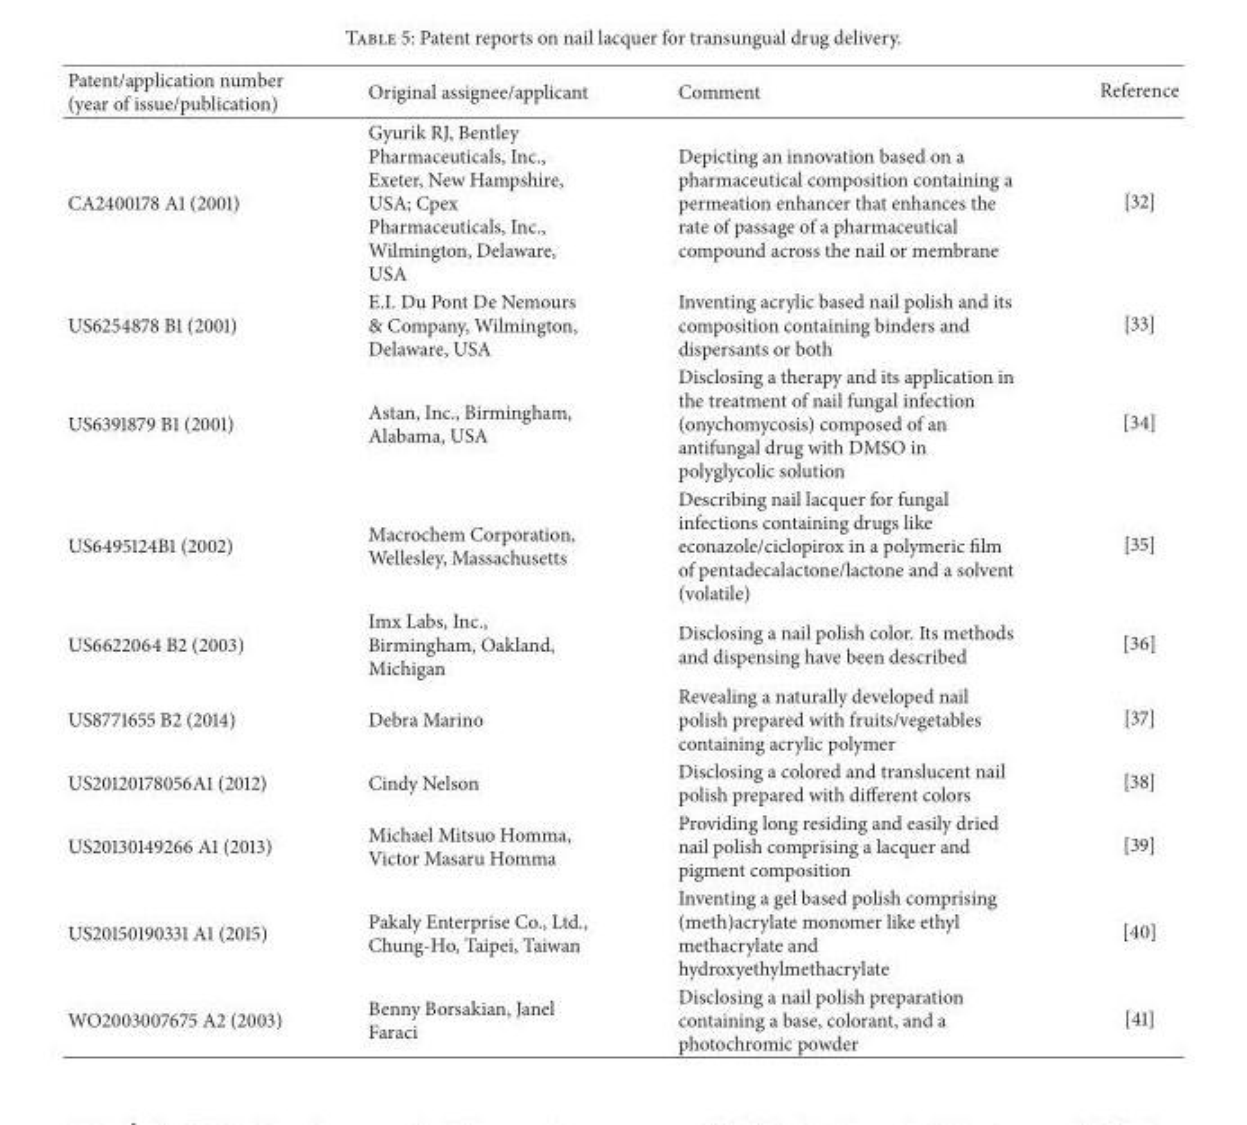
<table><thead><tr><td>Patent/application number (year of issue/publication)</td><td>Original assignee/applicant</td><td>Comment</td><td>Reference</td></tr></thead><tbody><tr><td>CA2400178 A1 (2001)</td><td>Gyurik RJ, Bentley Pharmaceuticals, Inc., Exeter, New Hampshire, USA; Cpex Pharmaceuticals, Inc., Wilmington, Delaware, USA</td><td>Depicting an innovation based on a pharmaceutical composition containing a permeation enhancer that enhances the rate of passage of a pharmaceutical compound across the nail or membrane</td><td>[32]</td></tr><tr><td>US6254878 B1 (2001)</td><td>E.I. Du Pont De Nemours &amp; Company, Wilmington, Delaware, USA</td><td>Inventing acrylic based nail polish and its composition containing binders and dispersants or both</td><td>[33]</td></tr><tr><td>US6391879 B1 (2001)</td><td>Astan, Inc., Birmingham, Alabama, USA</td><td>Disclosing a therapy and its application in the treatment of nail fungal infection (onychomycosis) composed of an antifungal drug with DMSO in polyglycolic solution</td><td>[34]</td></tr><tr><td>US6495124B1 (2002)</td><td>Macrochem Corporation, Wellesley, Massachusetts</td><td>Describing nail lacquer for fungal infections containing drugs like econazole/ciclopirox in a polymeric film of pentadecalactone/lactone and a solvent (volatile)</td><td>[35]</td></tr><tr><td>US6622064 B2 (2003)</td><td>Imx Labs, Inc., Birmingham, Oakland, Michigan</td><td>Disclosing a nail polish color. Its methods and dispensing have been described</td><td>[36]</td></tr><tr><td>US8771655 B2 (2014)</td><td>Debra Marino</td><td>Revealing a naturally developed nail polish prepared with fruits/vegetables containing acrylic polymer</td><td>[37]</td></tr><tr><td>US20120178056A1 (2012)</td><td>Cindy Nelson</td><td>Disclosing a colored and translucent nail polish prepared with different colors</td><td>[38]</td></tr><tr><td>US20130149266 A1 (2013)</td><td>Michael Mitsuo Homma, Victor Masaru Homma</td><td>Providing long residing and easily dried nail polish comprising a lacquer and pigment composition</td><td>[39]</td></tr><tr><td>US20150190331 A1 (2015)</td><td>Pakaly Enterprise Co., Ltd., Chung-Ho, Taipei, Taiwan</td><td>Inventing a gel based polish comprising (meth)acrylate monomer like ethyl methacrylate and hydroxyethylmethacrylate</td><td>[40]</td></tr><tr><td>WO2003007675 A2 (2003)</td><td>Benny Borsakian, Janel Faraci</td><td>Disclosing a nail polish preparation containing a base, colorant, and a photochromic powder</td><td>[41]</td></tr></tbody></table>